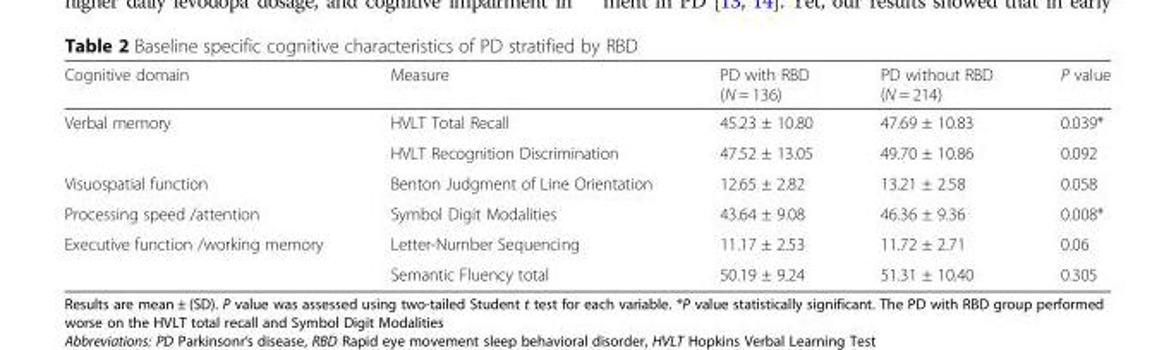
<table><thead><tr><td>Cognitive domain</td><td>Measure</td><td>PD with RBD (N = 136)</td><td>PD without RBD (N = 214)</td><td>P value</td></tr></thead><tbody><tr><td rowspan="2">Verbal memory</td><td>HVLT Total Recall</td><td>45.23 ± 10.80</td><td>47.69 ± 10.83</td><td>0.039*</td></tr><tr><td>HVLT Recognition Discrimination</td><td>47.52 ± 13.05</td><td>49.70 ± 10.86</td><td>0.092</td></tr><tr><td>Visuospatial function</td><td>Benton Judgment of Line Orientation</td><td>12.65 ± 2.82</td><td>13.21 ± 2.58</td><td>0.058</td></tr><tr><td>Processing speed /attention</td><td>Symbol Digit Modalities</td><td>43.64 ± 9.08</td><td>46.36 ± 9.36</td><td>0.008*</td></tr><tr><td rowspan="2">Executive function /working memory</td><td>Letter-Number Sequencing</td><td>11.17 ± 2.53</td><td>11.72 ± 2.71</td><td>0.06</td></tr><tr><td>Semantic Fluency total</td><td>50.19 ± 9.24</td><td>51.31 ± 10.40</td><td>0.305</td></tr></tbody></table>